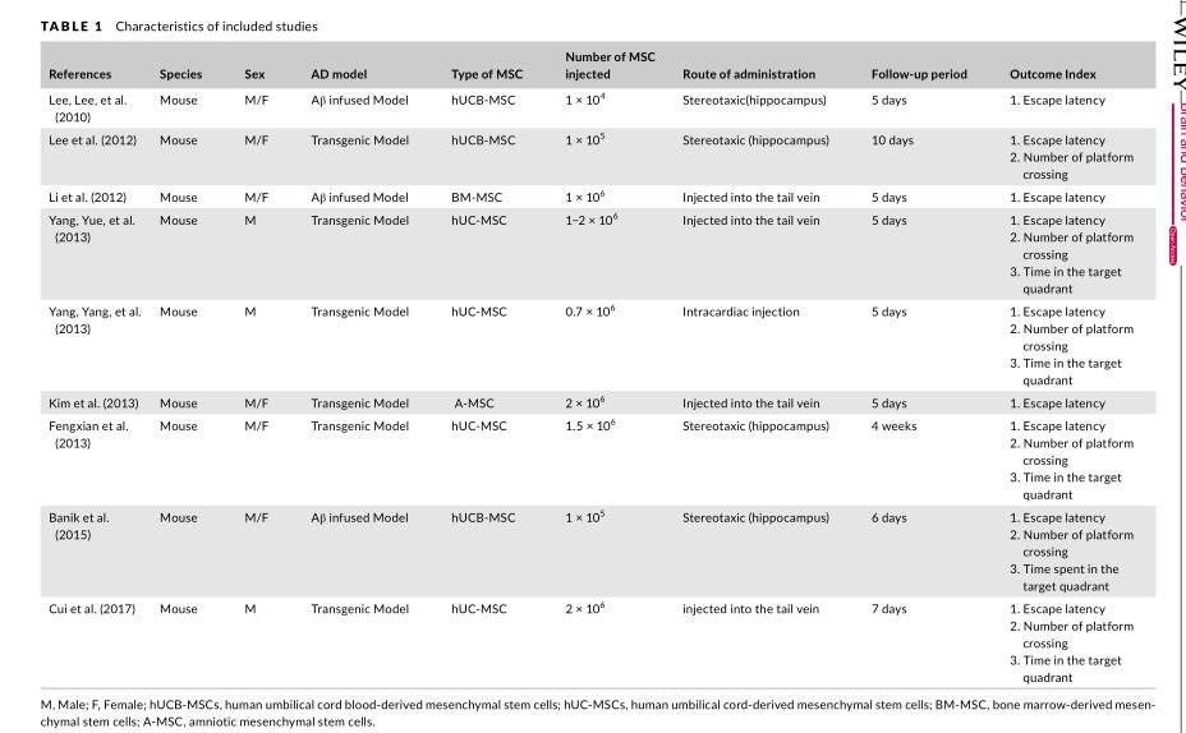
<table><thead><tr><td>References</td><td>Species</td><td>Sex</td><td>AD model</td><td>Type of MSC</td><td>Number of MSC injected</td><td>Route of administration</td><td>Follow- up period</td><td>Outcome Index</td></tr></thead><tbody><tr><td>Lee, Lee, et al. (2010)</td><td>Mouse</td><td>M/F</td><td>Aβ infused Model</td><td>hUCB- MSC</td><td>1 × 10<sup>4</sup></td><td>Stereotaxic(hippocampus)</td><td>5 days</td><td>1. Escape latency</td></tr><tr><td>Lee et al. (2012)</td><td>Mouse</td><td>M/F</td><td>Transgenic Model</td><td>hUCB- MSC</td><td>1 × 10<sup>5</sup></td><td>Stereotaxic (hippocampus)</td><td>10 days</td><td>1. Escape latency 2. Number of platform crossing</td></tr><tr><td>Li et al. (2012)</td><td>Mouse</td><td>M/F</td><td>Aβ infused Model</td><td>BM- MSC</td><td>1 × 10<sup>6</sup></td><td>Injected into the tail vein</td><td>5 days</td><td>1. Escape latency</td></tr><tr><td>Yang, Yue, et al. (2013)</td><td>Mouse</td><td>M</td><td>Transgenic Model</td><td>hUC- MSC</td><td>1−2 × 10<sup>6</sup></td><td>Injected into the tail vein</td><td>5 days</td><td>1. Escape latency 2. Number of platform crossing 3. Time in the target quadrant</td></tr><tr><td>Yang, Yang, et al. (2013)</td><td>Mouse</td><td>M</td><td>Transgenic Model</td><td>hUC- MSC</td><td>0.7 × 10<sup>6</sup></td><td>Intracardiac injection</td><td>5 days</td><td>1. Escape latency 2. Number of platform crossing 3. Time in the target quadrant</td></tr><tr><td>Kim et al. (2013)</td><td>Mouse</td><td>M/F</td><td>Transgenic Model</td><td>A- MSC</td><td>2 × 10<sup>6</sup></td><td>Injected into the tail vein</td><td>5 days</td><td>1. Escape latency</td></tr><tr><td>Fengxian et al. (2013)</td><td>Mouse</td><td>M/F</td><td>Transgenic Model</td><td>hUC- MSC</td><td>1.5 × 10<sup>6</sup></td><td>Stereotaxic (hippocampus)</td><td>4 weeks</td><td>1. Escape latency 2. Number of platform crossing 3. Time in the target quadrant</td></tr><tr><td>Banik et al. (2015)</td><td>Mouse</td><td>M/F</td><td>Aβ infused Model</td><td>hUCB- MSC</td><td>1 × 10<sup>5</sup></td><td>Stereotaxic (hippocampus)</td><td>6 days</td><td>1. Escape latency 2. Number of platform crossing 3. Time spent in the target quadrant</td></tr><tr><td>Cui et al. (2017)</td><td>Mouse</td><td>M</td><td>Transgenic Model</td><td>hUC- MSC</td><td>2 × 10<sup>6</sup></td><td>injected into the tail vein</td><td>7 days</td><td>1. Escape latency 2. Number of platform crossing 3. Time in the target quadrant</td></tr></tbody></table>